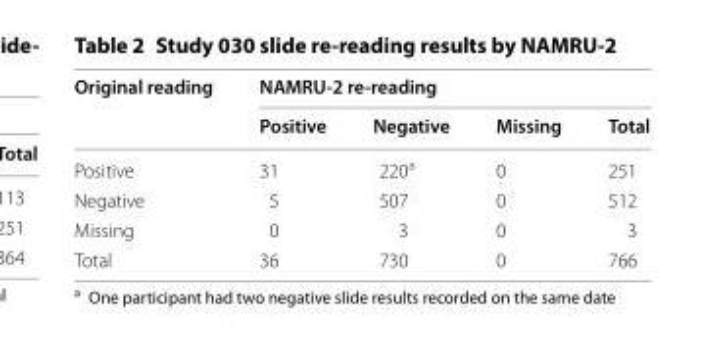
<table><thead><tr><td rowspan="2">Original reading</td><td colspan="4">NAMRU-2 re-reading</td></tr><tr><td>Positive</td><td>Negative</td><td>Missing</td><td>Total</td></tr></thead><tbody><tr><td>Positive</td><td>31</td><td>220<sup>a</sup></td><td>0</td><td>251</td></tr><tr><td>Negative</td><td>5</td><td>507</td><td>0</td><td>512</td></tr><tr><td>Missing</td><td>0</td><td>3</td><td>0</td><td>3</td></tr><tr><td>Total</td><td>36</td><td>730</td><td>0</td><td>766</td></tr></tbody></table>